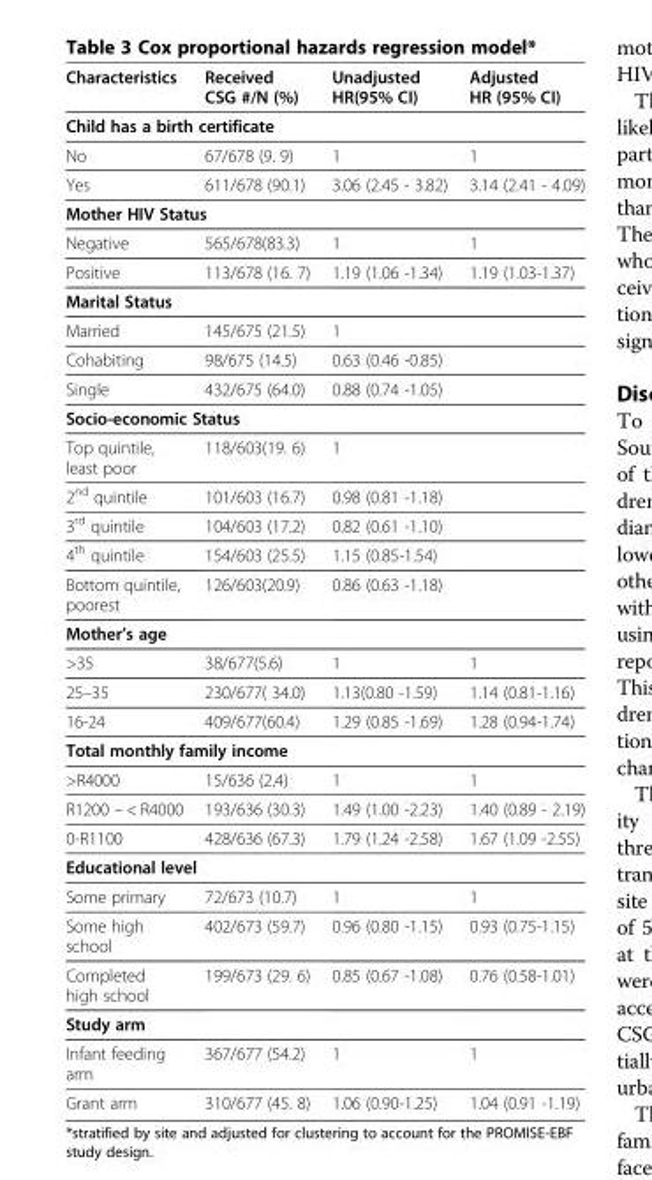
<table><thead><tr><td>Characteristics</td><td>Received CSG #/N (%)</td><td>Unadjusted HR(95% CI)</td><td>Adjusted HR (95% CI)</td></tr></thead><tbody><tr><td colspan="4">Child has a birth certificate</td></tr><tr><td>No</td><td>67/678 (9. 9)</td><td>1</td><td>1</td></tr><tr><td>Yes</td><td>611/678 (90.1)</td><td>3.06 (2.45 - 3.82)</td><td>3.14 (2.41 - 4.09)</td></tr><tr><td colspan="4">Mother HIV Status</td></tr><tr><td>Negative</td><td>565/678(83.3)</td><td>1</td><td>1</td></tr><tr><td>Positive</td><td>113/678 (16. 7)</td><td>1.19 (1.06 -1.34)</td><td>1.19 (1.03-1.37)</td></tr><tr><td colspan="4">Marital Status</td></tr><tr><td>Married</td><td>145/675 (21.5)</td><td>1</td><td></td></tr><tr><td>Cohabiting</td><td>98/675 (14.5)</td><td>0.63 (0.46 -0.85)</td><td></td></tr><tr><td>Single</td><td>432/675 (64.0)</td><td>0.88 (0.74 -1.05)</td><td></td></tr><tr><td colspan="4">Socio-economic Status</td></tr><tr><td>Top quintile, least poor</td><td>118/603(19. 6)</td><td>1</td><td></td></tr><tr><td>2<sup>nd</sup> quintile</td><td>101/603 (16.7)</td><td>0.98 (0.81 -1.18)</td><td></td></tr><tr><td>3<sup>rd</sup> quintile</td><td>104/603 (17.2)</td><td>0.82 (0.61 -1.10)</td><td></td></tr><tr><td>4<sup>th</sup> quintile</td><td>154/603 (25.5)</td><td>1.15 (0.85-1.54)</td><td></td></tr><tr><td>Bottom quintile, poorest</td><td>126/603(20.9)</td><td>0.86 (0.63 -1.18)</td><td></td></tr><tr><td colspan="4">Mother’s age</td></tr><tr><td>&gt;35</td><td>38/677(5.6)</td><td>1</td><td>1</td></tr><tr><td>25–35</td><td>230/677( 34.0)</td><td>1.13(0.80 -1.59)</td><td>1.14 (0.81-1.16)</td></tr><tr><td>16-24</td><td>409/677(60.4)</td><td>1.29 (0.85 -1.69)</td><td>1.28 (0.94-1.74)</td></tr><tr><td colspan="4">Total monthly family income</td></tr><tr><td>&gt;R4000</td><td>15/636 (2.4)</td><td>1</td><td>1</td></tr><tr><td>R1200 – &lt; R4000</td><td>193/636 (30.3)</td><td>1.49 (1.00 -2.23)</td><td>1.40 (0.89 - 2.19)</td></tr><tr><td>0-R1100</td><td>428/636 (67.3)</td><td>1.79 (1.24 -2.58)</td><td>1.67 (1.09 -2.55)</td></tr><tr><td colspan="4">Educational level</td></tr><tr><td>Some primary</td><td>72/673 (10.7)</td><td>1</td><td>1</td></tr><tr><td>Some high school</td><td>402/673 (59.7)</td><td>0.96 (0.80 -1.15)</td><td>0.93 (0.75-1.15)</td></tr><tr><td>Completed high school</td><td>199/673 (29. 6)</td><td>0.85 (0.67 -1.08)</td><td>0.76 (0.58-1.01)</td></tr><tr><td colspan="4">Study arm</td></tr><tr><td>Infant feeding arm</td><td>367/677 (54.2)</td><td>1</td><td>1</td></tr><tr><td>Grant arm</td><td>310/677 (45. 8)</td><td>1.06 (0.90-1.25)</td><td>1.04 (0.91 -1.19)</td></tr></tbody></table>